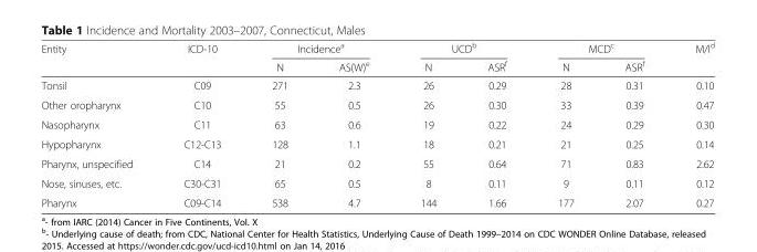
<table><thead><tr><td rowspan="2">Entity</td><td rowspan="2">ICD-10</td><td colspan="2">Incidence<sup>a</sup></td><td colspan="2">UCD<sup>b</sup></td><td colspan="2">MCD<sup>c</sup></td><td rowspan="2">M/I<sup>d</sup></td></tr><tr><td>N</td><td>AS(W)<sup>e</sup></td><td>N</td><td>ASR<sup>f</sup></td><td>N</td><td>ASR<sup>f</sup></td></tr></thead><tbody><tr><td>Tonsil</td><td>C09</td><td>271</td><td>2.3</td><td>26</td><td>0.29</td><td>28</td><td>0.31</td><td>0.10</td></tr><tr><td>Other oropharynx</td><td>C10</td><td>55</td><td>0.5</td><td>26</td><td>0.30</td><td>33</td><td>0.39</td><td>0.47</td></tr><tr><td>Nasopharynx</td><td>C11</td><td>63</td><td>0.6</td><td>19</td><td>0.22</td><td>24</td><td>0.29</td><td>0.30</td></tr><tr><td>Hypopharynx</td><td>C12-C13</td><td>128</td><td>1.1</td><td>18</td><td>0.21</td><td>21</td><td>0.25</td><td>0.14</td></tr><tr><td>Pharynx, unspecified</td><td>C14</td><td>21</td><td>0.2</td><td>55</td><td>0.64</td><td>71</td><td>0.83</td><td>2.62</td></tr><tr><td>Nose, sinuses, etc.</td><td>C30-C31</td><td>65</td><td>0.5</td><td>8</td><td>0.11</td><td>9</td><td>0.11</td><td>0.12</td></tr><tr><td>Pharynx</td><td>C09-C14</td><td>538</td><td>4.7</td><td>144</td><td>1.66</td><td>177</td><td>2.07</td><td>0.27</td></tr></tbody></table>